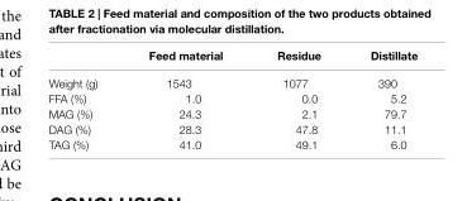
<table><thead><tr><td></td><td>Feed material</td><td>residue</td><td>Distillate</td></tr></thead><tbody><tr><td>Weight (g)</td><td>1543</td><td>1077</td><td>390</td></tr><tr><td>FFA (%)</td><td>1.0</td><td>0.0</td><td>5.2</td></tr><tr><td>MAG (%)</td><td>24.3</td><td>2.1</td><td>79.7</td></tr><tr><td>DAG (%)</td><td>28.3</td><td>47.8</td><td>11.1</td></tr><tr><td>TAG (%)</td><td>41.0</td><td>49.1</td><td>6.0</td></tr></tbody></table>